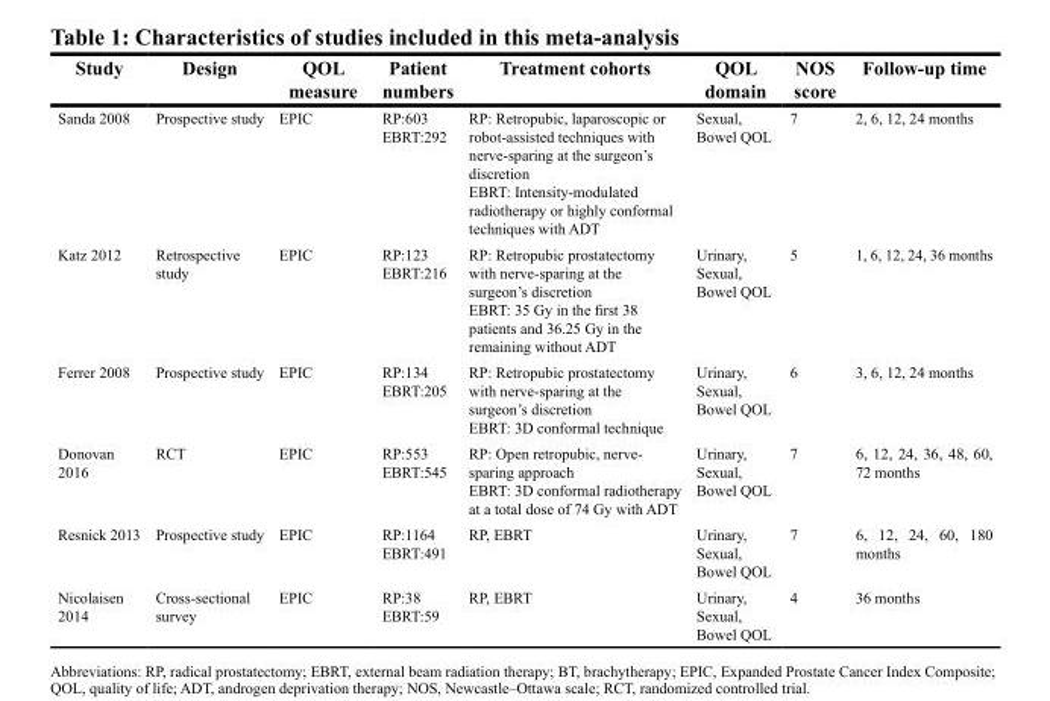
<table><thead><tr><td>Study</td><td>Design</td><td>QOL measure</td><td>Patient numbers</td><td>Treatment cohorts</td><td>QOL domain</td><td>NOS score</td><td>Follow-up time</td></tr></thead><tbody><tr><td>Sanda 2008</td><td>Prospective study</td><td>EPIC</td><td>RP:603 EBRT:292</td><td>RP: Retropubic, laparoscopic or robot-assisted techniques with nerve-sparing at the surgeon’s discretion EBRT: Intensity-modulated radiotherapy or highly conformal techniques with ADT</td><td>Sexual, Bowel QOL</td><td>7</td><td>2, 6, 12, 24 months</td></tr><tr><td>Katz 2012</td><td>Retrospective study</td><td>EPIC</td><td>RP:123 EBRT:216</td><td>RP: Retropubic prostatectomy with nerve-sparing at the surgeon’s discretion EBRT: 35 Gy in the first 38 patients and 36.25 Gy in the remaining without ADT</td><td>Urinary, Sexual, Bowel QOL</td><td>5</td><td>1, 6, 12, 24, 36 months</td></tr><tr><td>Ferrer 2008</td><td>Prospective study</td><td>EPIC</td><td>RP:134 EBRT:205</td><td>RP: Retropubic prostatectomy with nerve-sparing at the surgeon’s discretion EBRT: 3D conformal technique</td><td>Urinary, Sexual, Bowel QOL</td><td>6</td><td>3, 6, 12, 24 months</td></tr><tr><td>Donovan 2016</td><td>RCT</td><td>EPIC</td><td>RP:553 EBRT:545</td><td>RP: Open retropubic, nerve- sparing approach EBRT: 3D conformal radiotherapy at a total dose of 74 Gy with ADT</td><td>Urinary, Sexual, Bowel QOL</td><td>7</td><td>6, 12, 24, 36, 48, 60, 72 months</td></tr><tr><td>Resnick 2013</td><td>Prospective study</td><td>EPIC</td><td>RP:1164 EBRT:491</td><td>RP, EBRT</td><td>Urinary, Sexual, Bowel QOL</td><td>7</td><td>6, 12, 24, 60, 180 months</td></tr><tr><td>Nicolaisen 2014</td><td>Cross-sectional survey</td><td>EPIC</td><td>RP:38 EBRT:59</td><td>RP, EBRT</td><td>Urinary, Sexual, Bowel QOL</td><td>4</td><td>36 months</td></tr></tbody></table>